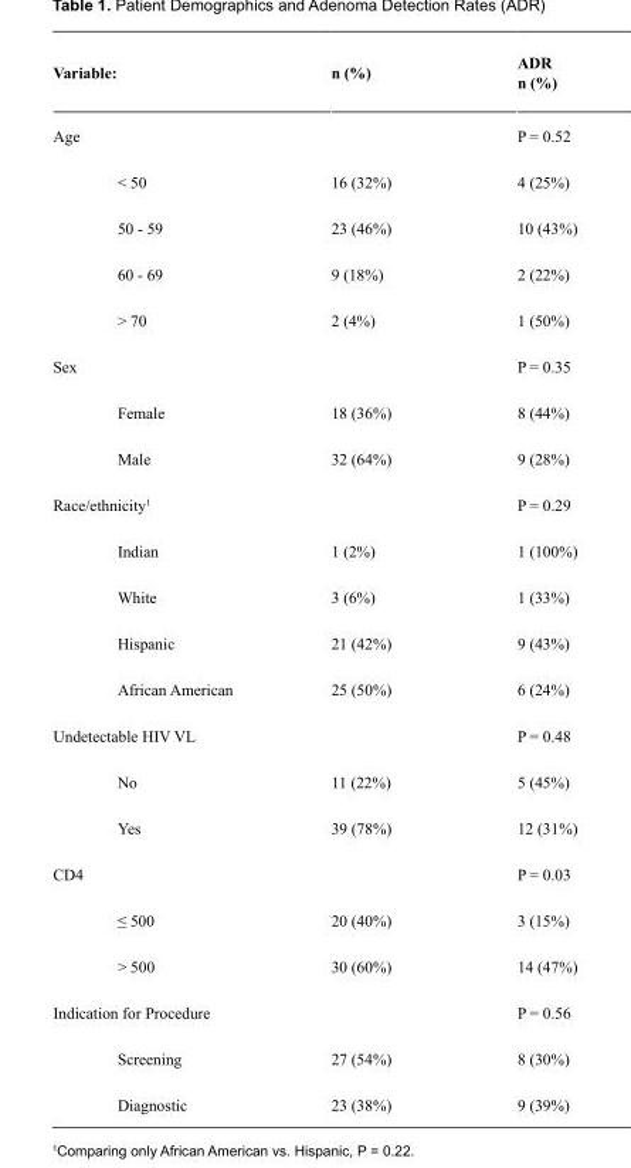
<table><thead><tr><td>Variable:</td><td>n (%)</td><td>ADR n (%)</td></tr></thead><tbody><tr><td>Age</td><td></td><td>P = 0.52</td></tr><tr><td>&lt; 50</td><td>16 (32%)</td><td>4 (25%)</td></tr><tr><td>50 - 59</td><td>23 (46%)</td><td>10 (43%)</td></tr><tr><td>60 - 69</td><td>9 (18%)</td><td>2 (22%)</td></tr><tr><td>&gt; 70</td><td>2 (4%)</td><td>1 (50%)</td></tr><tr><td>Sex</td><td></td><td>P = 0.35</td></tr><tr><td>Female</td><td>18 (36%)</td><td>8 (44%)</td></tr><tr><td>Male</td><td>32 (64%)</td><td>9 (28%)</td></tr><tr><td>Race/ethnicity<sup>1</sup></td><td></td><td>P = 0.29</td></tr><tr><td>Indian</td><td>1 (2%)</td><td>1 (100%)</td></tr><tr><td>White</td><td>3 (6%)</td><td>1 (33%)</td></tr><tr><td>Hispanic</td><td>21 (42%)</td><td>9 (43%)</td></tr><tr><td>African American</td><td>25 (50%)</td><td>6 (24%)</td></tr><tr><td>Undetectable HIV VL</td><td></td><td>P = 0.48</td></tr><tr><td>No</td><td>11 (22%)</td><td>5 (45%)</td></tr><tr><td>Yes</td><td>39 (78%)</td><td>12 (31%)</td></tr><tr><td>CD4</td><td></td><td>P = 0.03</td></tr><tr><td>≤ 500</td><td>20 (40%)</td><td>3 (15%)</td></tr><tr><td>&gt; 500</td><td>30 (60%)</td><td>14 (47%)</td></tr><tr><td>Indication for Procedure</td><td></td><td>P = 0.56</td></tr><tr><td>Screening</td><td>27 (54%)</td><td>8 (30%)</td></tr><tr><td>Diagnostic</td><td>23 (38%)</td><td>9 (39%)</td></tr></tbody></table>